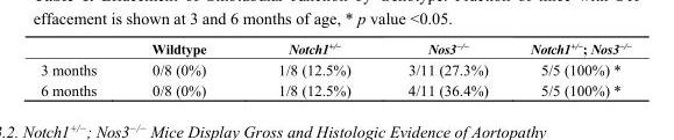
<table><thead><tr><td></td><td>Wildtype</td><td>Notch1<sup>+/−</sup></td><td>Nos3<sup>−/−</sup></td><td>Notch1<sup>+/−</sup>; Nos3<sup>−/−</sup></td></tr></thead><tbody><tr><td>3 months</td><td>0/8 (0%)</td><td>1/8 (12.5%)</td><td>3/11 (27.3%)</td><td>5/5 (100%) *</td></tr><tr><td>6 months</td><td>0/8 (0%)</td><td>1/8 (12.5%)</td><td>4/11 (36.4%)</td><td>5/5 (100%) *</td></tr></tbody></table>